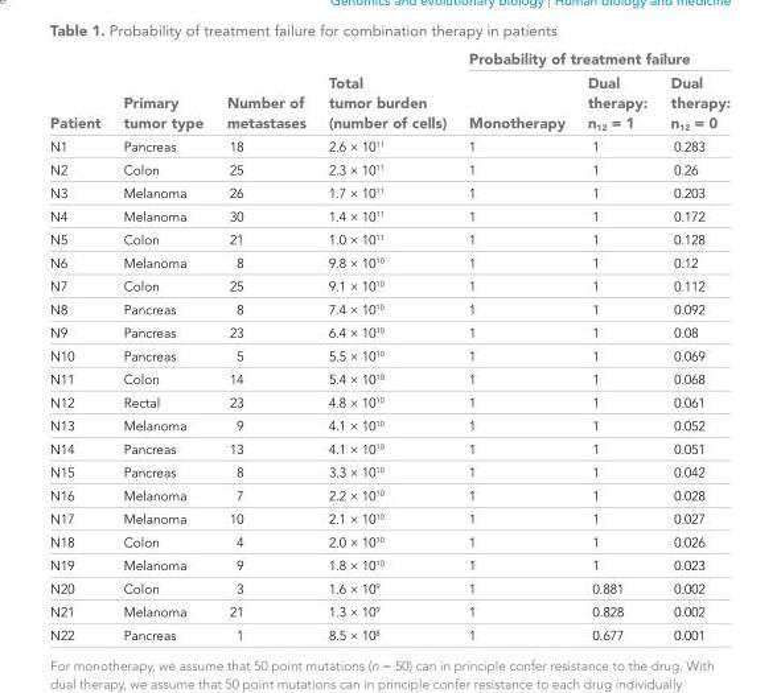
<table><thead><tr><td rowspan="2">Patient</td><td rowspan="2">Primary tumor type</td><td rowspan="2">Number of metastases</td><td rowspan="2">Total tumor burden (number of cells)</td><td colspan="3">Probability of treatment failure</td></tr><tr><td>Monotherapy</td><td>Dual therapy: n<sub>12</sub> = 1</td><td>Dual therapy: n<sub>12</sub> = 0</td></tr></thead><tbody><tr><td>N1</td><td>Pancreas</td><td>18</td><td>2.6 × 10<sup>11</sup></td><td>1</td><td>1</td><td>0.283</td></tr><tr><td>N2</td><td>Colon</td><td>25</td><td>2.3 × 10<sup>11</sup></td><td>1</td><td>1</td><td>0.26</td></tr><tr><td>N3</td><td>Melanoma</td><td>26</td><td>1.7 × 10<sup>11</sup></td><td>1</td><td>1</td><td>0.203</td></tr><tr><td>N4</td><td>Melanoma</td><td>30</td><td>1.4 × 10<sup>11</sup></td><td>1</td><td>1</td><td>0.172</td></tr><tr><td>N5</td><td>Colon</td><td>21</td><td>1.0 × 10<sup>11</sup></td><td>1</td><td>1</td><td>0.128</td></tr><tr><td>N6</td><td>Melanoma</td><td>8</td><td>9.8 × 10<sup>10</sup></td><td>1</td><td>1</td><td>0.12</td></tr><tr><td>N7</td><td>Colon</td><td>25</td><td>9.1 × 10<sup>10</sup></td><td>1</td><td>1</td><td>0.112</td></tr><tr><td>N8</td><td>Pancreas</td><td>8</td><td>7.4 × 10<sup>10</sup></td><td>1</td><td>1</td><td>0.092</td></tr><tr><td>N9</td><td>Pancreas</td><td>23</td><td>6.4 × 10<sup>10</sup></td><td>1</td><td>1</td><td>0.08</td></tr><tr><td>N10</td><td>Pancreas</td><td>5</td><td>5.5 × 10<sup>10</sup></td><td>1</td><td>1</td><td>0.069</td></tr><tr><td>N11</td><td>Colon</td><td>14</td><td>5.4 × 10<sup>10</sup></td><td>1</td><td>1</td><td>0.068</td></tr><tr><td>N12</td><td>Rectal</td><td>23</td><td>4.8 × 10<sup>10</sup></td><td>1</td><td>1</td><td>0.061</td></tr><tr><td>N13</td><td>Melanoma</td><td>9</td><td>4.1 × 10<sup>10</sup></td><td>1</td><td>1</td><td>0.052</td></tr><tr><td>N14</td><td>Pancreas</td><td>13</td><td>4.1 × 10<sup>10</sup></td><td>1</td><td>1</td><td>0.051</td></tr><tr><td>N15</td><td>Pancreas</td><td>8</td><td>3.3 × 10<sup>10</sup></td><td>1</td><td>1</td><td>0.042</td></tr><tr><td>N16</td><td>Melanoma</td><td>7</td><td>2.2 × 10<sup>10</sup></td><td>1</td><td>1</td><td>0.028</td></tr><tr><td>N17</td><td>Melanoma</td><td>10</td><td>2.1 × 10<sup>10</sup></td><td>1</td><td>1</td><td>0.027</td></tr><tr><td>N18</td><td>Colon</td><td>4</td><td>2.0 × 10<sup>10</sup></td><td>1</td><td>1</td><td>0.026</td></tr><tr><td>N19</td><td>Melanoma</td><td>9</td><td>1.8 × 10<sup>10</sup></td><td>1</td><td>1</td><td>0.023</td></tr><tr><td>N20</td><td>Colon</td><td>3</td><td>1.6 × 10<sup>9</sup></td><td>1</td><td>0.881</td><td>0.002</td></tr><tr><td>N21</td><td>Melanoma</td><td>21</td><td>1.3 × 10<sup>9</sup></td><td>1</td><td>0.828</td><td>0.002</td></tr><tr><td>N22</td><td>Pancreas</td><td>1</td><td>8.5 × 10<sup>8</sup></td><td>1</td><td>0.677</td><td>0.001</td></tr></tbody></table>